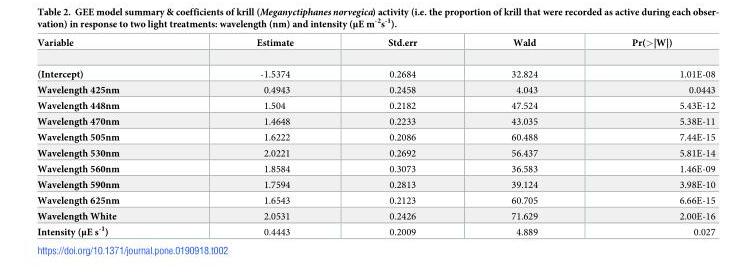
<table><thead><tr><td>Variable</td><td>Estimate</td><td>Std.err</td><td>Wald</td><td>Pr(&gt;|W|)</td></tr></thead><tbody><tr><td>(Intercept)</td><td>-1.5374</td><td>0.2684</td><td>32.824</td><td>1.01E-08</td></tr><tr><td>Wavelength 425nm</td><td>0.4943</td><td>0.2458</td><td>4.043</td><td>0.0443</td></tr><tr><td>Wavelength 448nm</td><td>1.504</td><td>0.2182</td><td>47.524</td><td>5.43E-12</td></tr><tr><td>Wavelength 470nm</td><td>1.4648</td><td>0.2233</td><td>43.035</td><td>5.38E-11</td></tr><tr><td>Wavelength 505nm</td><td>1.6222</td><td>0.2086</td><td>60.488</td><td>7.44E-15</td></tr><tr><td>Wavelength 530nm</td><td>2.0221</td><td>0.2692</td><td>56.437</td><td>5.81E-14</td></tr><tr><td>Wavelength 560nm</td><td>1.8584</td><td>0.3073</td><td>36.583</td><td>1.46E-09</td></tr><tr><td>Wavelength 590nm</td><td>1.7594</td><td>0.2813</td><td>39.124</td><td>3.98E-10</td></tr><tr><td>Wavelength 625nm</td><td>1.6543</td><td>0.2123</td><td>60.705</td><td>6.66E-15</td></tr><tr><td>Wavelength White</td><td>2.0531</td><td>0.2426</td><td>71.629</td><td>2.00E-16</td></tr><tr><td>Intensity (μE s<sup>-1</sup>)</td><td>0.4443</td><td>0.2009</td><td>4.889</td><td>0.027</td></tr></tbody></table>